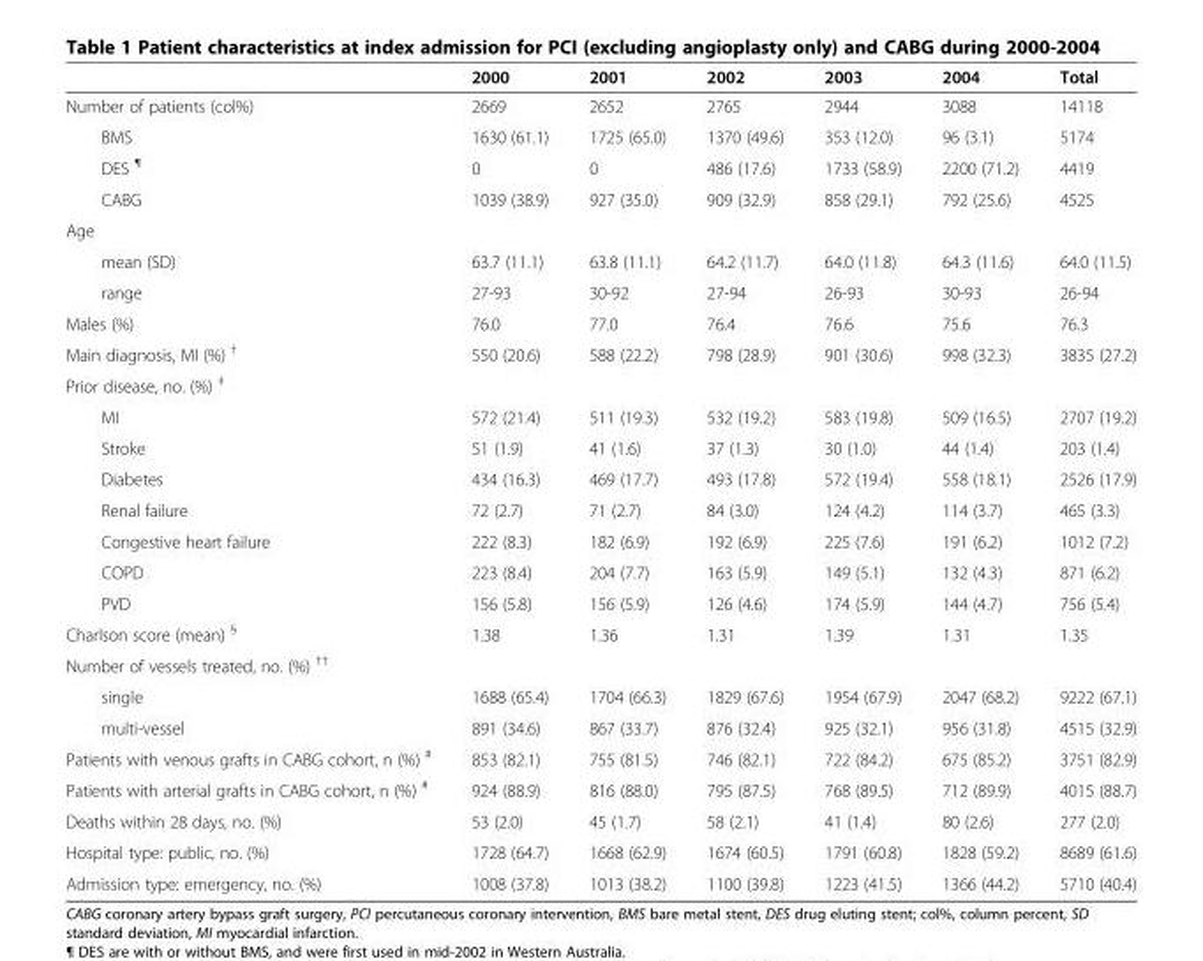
<table><thead><tr><td></td><td>2000</td><td>2001</td><td>2002</td><td>2003</td><td>2004</td><td>Total</td></tr></thead><tbody><tr><td>Number of patients (col%)</td><td>2669</td><td>2652</td><td>2765</td><td>2944</td><td>3088</td><td>14118</td></tr><tr><td>BMS</td><td>1630 (61.1)</td><td>1725 (65.0)</td><td>1370 (49.6)</td><td>353 (12.0)</td><td>96 (3.1)</td><td>5174</td></tr><tr><td>DES <sup>¶</sup></td><td>0</td><td>0</td><td>486 (17.6)</td><td>1733 (58.9)</td><td>2200 (71.2)</td><td>4419</td></tr><tr><td>CABG</td><td>1039 (38.9)</td><td>927 (35.0)</td><td>909 (32.9)</td><td>858 (29.1)</td><td>792 (25.6)</td><td>4525</td></tr><tr><td colspan="7">Age</td></tr><tr><td>mean (SD)</td><td>63.7 (11.1)</td><td>63.8 (11.1)</td><td>64.2 (11.7)</td><td>64.0 (11.8)</td><td>64.3 (11.6)</td><td>64.0 (11.5)</td></tr><tr><td>range</td><td>27-93</td><td>30-92</td><td>27-94</td><td>26-93</td><td>30-93</td><td>26-94</td></tr><tr><td>Males (%)</td><td>76.0</td><td>77.0</td><td>76.4</td><td>76.6</td><td>75.6</td><td>76.3</td></tr><tr><td>Main diagnosis, MI (%) <sup>†</sup></td><td>550 (20.6)</td><td>588 (22.2)</td><td>798 (28.9)</td><td>901 (30.6)</td><td>998 (32.3)</td><td>3835 (27.2)</td></tr><tr><td colspan="7">Prior disease, no. (%) <sup>‡</sup></td></tr><tr><td>MI</td><td>572 (21.4)</td><td>511 (19.3)</td><td>532 (19.2)</td><td>583 (19.8)</td><td>509 (16.5)</td><td>2707 (19.2)</td></tr><tr><td>Stroke</td><td>51 (1.9)</td><td>41 (1.6)</td><td>37 (1.3)</td><td>30 (1.0)</td><td>44 (1.4)</td><td>203 (1.4)</td></tr><tr><td>Diabetes</td><td>434 (16.3)</td><td>469 (17.7)</td><td>493 (17.8)</td><td>572 (19.4)</td><td>558 (18.1)</td><td>2526 (17.9)</td></tr><tr><td>Renal failure</td><td>72 (2.7)</td><td>71 (2.7)</td><td>84 (3.0)</td><td>124 (4.2)</td><td>114 (3.7)</td><td>465 (3.3)</td></tr><tr><td>Congestive heart failure</td><td>222 (8.3)</td><td>182 (6.9)</td><td>192 (6.9)</td><td>225 (7.6)</td><td>191 (6.2)</td><td>1012 (7.2)</td></tr><tr><td>COPD</td><td>223 (8.4)</td><td>204 (7.7)</td><td>163 (5.9)</td><td>149 (5.1)</td><td>132 (4.3)</td><td>871 (6.2)</td></tr><tr><td>PVD</td><td>156 (5.8)</td><td>156 (5.9)</td><td>126 (4.6)</td><td>174 (5.9)</td><td>144 (4.7)</td><td>756 (5.4)</td></tr><tr><td>Charlson score (mean) <sup>§</sup></td><td>1.38</td><td>1.36</td><td>1.31</td><td>1.39</td><td>1.31</td><td>1.35</td></tr><tr><td colspan="7">Number of vessels treated, no. (%) <sup>††</sup></td></tr><tr><td>single</td><td>1688 (65.4)</td><td>1704 (66.3)</td><td>1829 (67.6)</td><td>1954 (67.9)</td><td>2047 (68.2)</td><td>9222 (67.1)</td></tr><tr><td>multi-vessel</td><td>891 (34.6)</td><td>867 (33.7)</td><td>876 (32.4)</td><td>925 (32.1)</td><td>956 (31.8)</td><td>4515 (32.9)</td></tr><tr><td>Patients with venous grafts in CABG cohort, n (%) <sup>#</sup></td><td>853 (82.1)</td><td>755 (81.5)</td><td>746 (82.1)</td><td>722 (84.2)</td><td>675 (85.2)</td><td>3751 (82.9)</td></tr><tr><td>Patients with arterial grafts in CABG cohort, n (%) <sup>#</sup></td><td>924 (88.9)</td><td>816 (88.0)</td><td>795 (87.5)</td><td>768 (89.5)</td><td>712 (89.9)</td><td>4015 (88.7)</td></tr><tr><td>Deaths within 28 days, no. (%)</td><td>53 (2.0)</td><td>45 (1.7)</td><td>58 (2.1)</td><td>41 (1.4)</td><td>80 (2.6)</td><td>277 (2.0)</td></tr><tr><td>Hospital type: public, no. (%)</td><td>1728 (64.7)</td><td>1668 (62.9)</td><td>1674 (60.5)</td><td>1791 (60.8)</td><td>1828 (59.2)</td><td>8689 (61.6)</td></tr><tr><td>Admission type: emergency, no. (%)</td><td>1008 (37.8)</td><td>1013 (38.2)</td><td>1100 (39.8)</td><td>1223 (41.5)</td><td>1366 (44.2)</td><td>5710 (40.4)</td></tr></tbody></table>